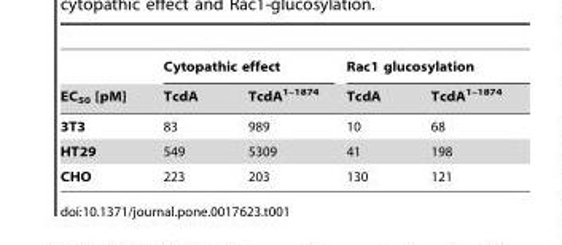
<table><thead><tr><td rowspan="2">EC<sub>50</sub> [pM]</td><td colspan="2">Cytopathic effect</td><td colspan="2">Rac1 glucosylation</td></tr><tr><td>TcdA</td><td>TcdA<sup>1–1874</sup></td><td>TcdA</td><td>TcdA<sup>1–1874</sup></td></tr></thead><tbody><tr><td>3T3</td><td>83</td><td>989</td><td>10</td><td>68</td></tr><tr><td>HT29</td><td>549</td><td>5309</td><td>41</td><td>198</td></tr><tr><td>CHO</td><td>223</td><td>203</td><td>130</td><td>121</td></tr></tbody></table>